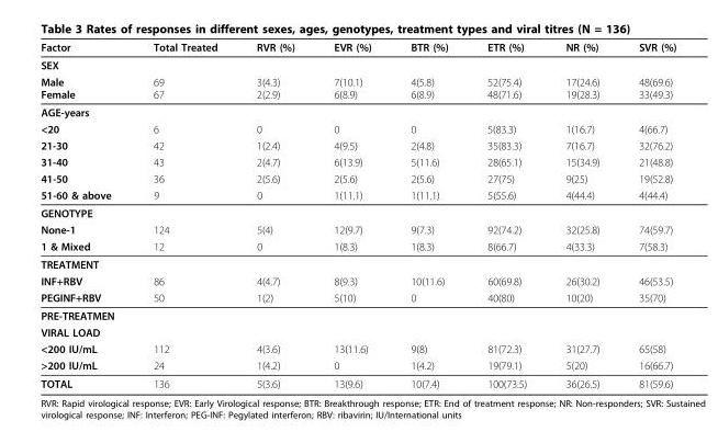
<table><thead><tr><td>Factor</td><td>Total Treated</td><td>RVR (%)</td><td>EVR (%)</td><td>BTR (%)</td><td>ETR (%)</td><td>NR (%)</td><td>SVR (%)</td></tr></thead><tbody><tr><td colspan="8">SEX</td></tr><tr><td>Male Female</td><td>69 67</td><td>3(4.3) 2(2.9)</td><td>7(10.1) 6(8.9)</td><td>4(5.8) 6(8.9)</td><td>52(75.4) 48(71.6)</td><td>17(24.6) 19(28.3)</td><td>48(69.6) 33(49.3)</td></tr><tr><td colspan="8">AGE-years</td></tr><tr><td>&lt;20</td><td>6</td><td>0</td><td>0</td><td>0</td><td>5(83.3)</td><td>1(16.7)</td><td>4(66.7)</td></tr><tr><td>21-30</td><td>42</td><td>1(2.4)</td><td>4(9.5)</td><td>2(4.8)</td><td>35(83.3)</td><td>7(16.7)</td><td>32(76.2)</td></tr><tr><td>31-40</td><td>43</td><td>2(4.7)</td><td>6(13.9)</td><td>5(11.6)</td><td>28(65.1)</td><td>15(34.9)</td><td>21(48.8)</td></tr><tr><td>41-50</td><td>36</td><td>2(5.6)</td><td>2(5.6)</td><td>2(5.6)</td><td>27(75)</td><td>9(25)</td><td>19(52.8)</td></tr><tr><td>51-60 &amp; above</td><td>9</td><td>0</td><td>1(11.1)</td><td>1(11.1)</td><td>5(55.6)</td><td>4(44.4)</td><td>4(44.4)</td></tr><tr><td colspan="8">GENOTYPE</td></tr><tr><td>None-1</td><td>124</td><td>5(4)</td><td>12(9.7)</td><td>9(7.3)</td><td>92(74.2)</td><td>32(25.8)</td><td>74(59.7)</td></tr><tr><td>1 &amp; Mixed</td><td>12</td><td>0</td><td>1(8.3)</td><td>1(8.3)</td><td>8(66.7)</td><td>4(33.3)</td><td>7(58.3)</td></tr><tr><td colspan="8">TREATMENT</td></tr><tr><td>INF+RBV</td><td>86</td><td>4(4.7)</td><td>8(9.3)</td><td>10(11.6)</td><td>60(69.8)</td><td>26(30.2)</td><td>46(53.5)</td></tr><tr><td>PEGINF+RBV</td><td>50</td><td>1(2)</td><td>5(10)</td><td>0</td><td>40(80)</td><td>10(20)</td><td>35(70)</td></tr><tr><td colspan="8">PRE-TREATMEN</td></tr><tr><td colspan="8">VIRAL LOAD</td></tr><tr><td>&lt;200 IU/mL</td><td>112</td><td>4(3.6)</td><td>13(11.6)</td><td>9(8)</td><td>81(72.3)</td><td>31(27.7)</td><td>65(58)</td></tr><tr><td>&gt;200 IU/mL</td><td>24</td><td>1(4.2)</td><td>0</td><td>1(4.2)</td><td>19(79.1)</td><td>5(20)</td><td>16(66.7)</td></tr><tr><td>TOTAL</td><td>136</td><td>5(3.6)</td><td>13(9.6)</td><td>10(7.4)</td><td>100(73.5)</td><td>36(26.5)</td><td>81(59.6)</td></tr></tbody></table>